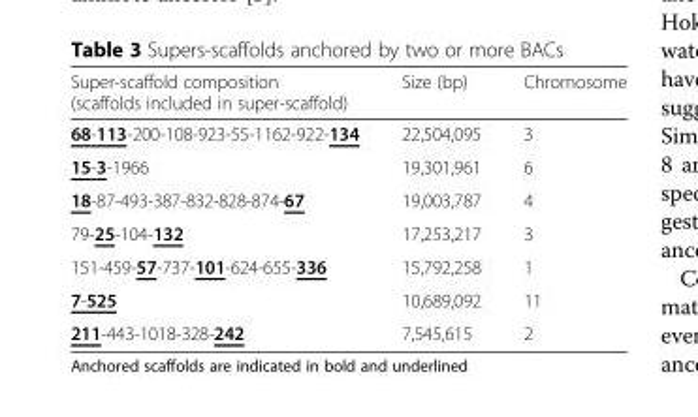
<table><thead><tr><td>Super-scaffold composition (scaffolds included in super-scaffold)</td><td>Size (bp)</td><td>Chromosome</td></tr></thead><tbody><tr><td>68-113-200-108-923-55-1162-922-134</td><td>22,504,095</td><td>3</td></tr><tr><td>15-3-1966</td><td>19,301,961</td><td>6</td></tr><tr><td>18-87-493-387-832-828-874-67</td><td>19,003,787</td><td>4</td></tr><tr><td>79-25-104-132</td><td>17,253,217</td><td>3</td></tr><tr><td>151-459-57-737-101-624-655-336</td><td>15,792,258</td><td>1</td></tr><tr><td>7-525</td><td>10,689,092</td><td>11</td></tr><tr><td>211-443-1018-328-242</td><td>7,545,615</td><td>2</td></tr></tbody></table>